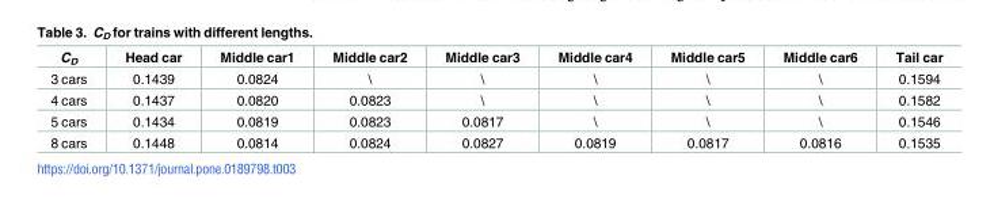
<table><thead><tr><td>C<sub>D</sub></td><td>Head car</td><td>Middle car1</td><td>Middle car2</td><td>Middle car3</td><td>Middle car4</td><td>Middle car5</td><td>Middle car6</td><td>Tail car</td></tr></thead><tbody><tr><td>3 cars</td><td>0.1439</td><td>0.0824</td><td>\</td><td>\</td><td>\</td><td>\</td><td>\</td><td>0.1594</td></tr><tr><td>4 cars</td><td>0.1437</td><td>0.0820</td><td>0.0823</td><td>\</td><td>\</td><td>\</td><td>\</td><td>0.1582</td></tr><tr><td>5 cars</td><td>0.1434</td><td>0.0819</td><td>0.0823</td><td>0.0817</td><td>\</td><td>\</td><td>\</td><td>0.1546</td></tr><tr><td>8 cars</td><td>0.1448</td><td>0.0814</td><td>0.0824</td><td>0.0827</td><td>0.0819</td><td>0.0817</td><td>0.0816</td><td>0.1535</td></tr></tbody></table>